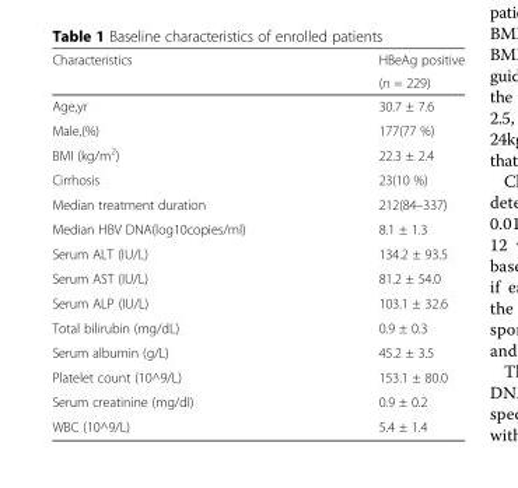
<table><thead><tr><td rowspan="2">Characteristics</td><td rowspan="2">HBeAg positive (n = 229)</td></tr><tr></tr></thead><tbody><tr><td>Age,yr</td><td>30.7 ± 7.6</td></tr><tr><td>Male,(%)</td><td>177(77 %)</td></tr><tr><td>BMI (kg/m<sup>2</sup>)</td><td>22.3 ± 2.4</td></tr><tr><td>Cirrhosis</td><td>23(10 %)</td></tr><tr><td>Median treatment duration</td><td>212(84–337)</td></tr><tr><td>Median HBV DNA(log10copies/ml)</td><td>8.1 ± 1.3</td></tr><tr><td>Serum ALT (IU/L)</td><td>134.2 ± 93.5</td></tr><tr><td>Serum AST (IU/L)</td><td>81.2 ± 54.0</td></tr><tr><td>Serum ALP (IU/L)</td><td>103.1 ± 32.6</td></tr><tr><td>Total bilirubin (mg/dL)</td><td>0.9 ± 0.3</td></tr><tr><td>Serum albumin (g/L)</td><td>45.2 ± 3.5</td></tr><tr><td>Platelet count (10^9/L)</td><td>153.1 ± 80.0</td></tr><tr><td>Serum creatinine (mg/dl)</td><td>0.9 ± 0.2</td></tr><tr><td>WBC (10^9/L)</td><td>5.4 ± 1.4</td></tr></tbody></table>